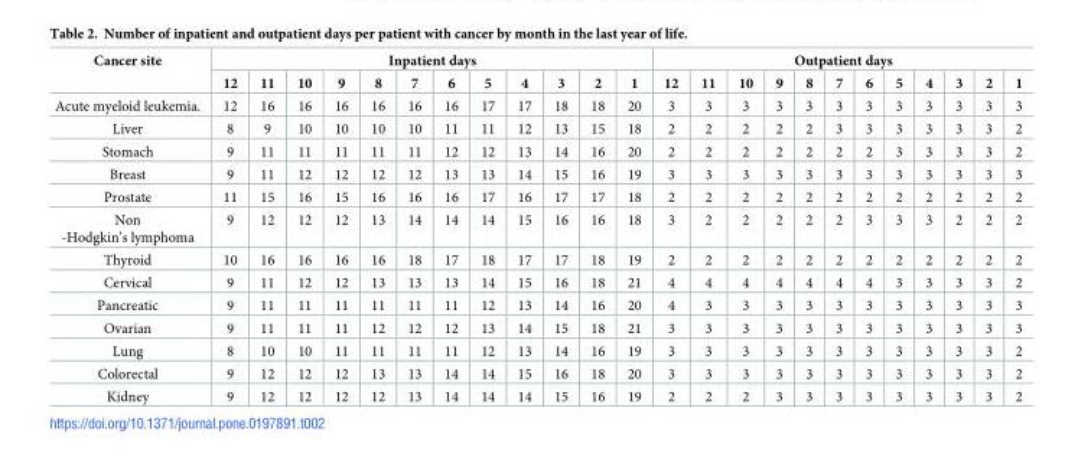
<table><thead><tr><td rowspan="2">Cancer site</td><td colspan="12">Inpatient days</td><td colspan="12">Outpatient days</td></tr><tr><td>12</td><td>11</td><td>10</td><td>9</td><td>8</td><td>7</td><td>6</td><td>5</td><td>4</td><td>3</td><td>2</td><td>1</td><td>12</td><td>11</td><td>10</td><td>9</td><td>8</td><td>7</td><td>6</td><td>5</td><td>4</td><td>3</td><td>2</td><td>1</td></tr></thead><tbody><tr><td>Acute myeloid leukemia.</td><td>12</td><td>16</td><td>16</td><td>16</td><td>16</td><td>16</td><td>16</td><td>17</td><td>17</td><td>18</td><td>18</td><td>20</td><td>3</td><td>3</td><td>3</td><td>3</td><td>3</td><td>3</td><td>3</td><td>3</td><td>3</td><td>3</td><td>3</td><td>3</td></tr><tr><td>Liver</td><td>8</td><td>9</td><td>10</td><td>10</td><td>10</td><td>10</td><td>11</td><td>11</td><td>12</td><td>13</td><td>15</td><td>18</td><td>2</td><td>2</td><td>2</td><td>2</td><td>2</td><td>3</td><td>3</td><td>3</td><td>3</td><td>3</td><td>3</td><td>2</td></tr><tr><td>Stomach</td><td>9</td><td>11</td><td>11</td><td>11</td><td>11</td><td>11</td><td>12</td><td>12</td><td>13</td><td>14</td><td>16</td><td>20</td><td>2</td><td>2</td><td>2</td><td>2</td><td>2</td><td>2</td><td>2</td><td>3</td><td>3</td><td>3</td><td>3</td><td>2</td></tr><tr><td>Breast</td><td>9</td><td>11</td><td>12</td><td>12</td><td>12</td><td>12</td><td>13</td><td>13</td><td>14</td><td>15</td><td>16</td><td>19</td><td>3</td><td>3</td><td>3</td><td>3</td><td>3</td><td>3</td><td>3</td><td>3</td><td>3</td><td>3</td><td>3</td><td>3</td></tr><tr><td>Prostate</td><td>11</td><td>15</td><td>16</td><td>15</td><td>16</td><td>16</td><td>16</td><td>17</td><td>16</td><td>17</td><td>17</td><td>18</td><td>2</td><td>2</td><td>2</td><td>2</td><td>2</td><td>2</td><td>2</td><td>2</td><td>2</td><td>2</td><td>2</td><td>2</td></tr><tr><td>Non -Hodgkin’s lymphoma</td><td>9</td><td>12</td><td>12</td><td>12</td><td>13</td><td>14</td><td>14</td><td>14</td><td>15</td><td>16</td><td>16</td><td>18</td><td>3</td><td>2</td><td>2</td><td>2</td><td>2</td><td>2</td><td>3</td><td>3</td><td>3</td><td>2</td><td>2</td><td>2</td></tr><tr><td>Thyroid</td><td>10</td><td>16</td><td>16</td><td>16</td><td>16</td><td>18</td><td>17</td><td>18</td><td>17</td><td>17</td><td>18</td><td>19</td><td>2</td><td>2</td><td>2</td><td>2</td><td>2</td><td>2</td><td>2</td><td>2</td><td>2</td><td>2</td><td>2</td><td>2</td></tr><tr><td>Cervical</td><td>9</td><td>11</td><td>12</td><td>12</td><td>13</td><td>13</td><td>13</td><td>14</td><td>15</td><td>16</td><td>18</td><td>21</td><td>4</td><td>4</td><td>4</td><td>4</td><td>4</td><td>4</td><td>4</td><td>3</td><td>3</td><td>3</td><td>3</td><td>2</td></tr><tr><td>Pancreatic</td><td>9</td><td>11</td><td>11</td><td>11</td><td>11</td><td>11</td><td>11</td><td>12</td><td>13</td><td>14</td><td>16</td><td>20</td><td>4</td><td>3</td><td>3</td><td>3</td><td>3</td><td>3</td><td>3</td><td>3</td><td>3</td><td>3</td><td>3</td><td>3</td></tr><tr><td>Ovarian</td><td>9</td><td>11</td><td>11</td><td>11</td><td>12</td><td>12</td><td>12</td><td>13</td><td>14</td><td>15</td><td>18</td><td>21</td><td>3</td><td>3</td><td>3</td><td>3</td><td>3</td><td>3</td><td>3</td><td>3</td><td>3</td><td>3</td><td>3</td><td>3</td></tr><tr><td>Lung</td><td>8</td><td>10</td><td>10</td><td>11</td><td>11</td><td>11</td><td>11</td><td>12</td><td>13</td><td>14</td><td>16</td><td>19</td><td>3</td><td>3</td><td>3</td><td>3</td><td>3</td><td>3</td><td>3</td><td>3</td><td>3</td><td>3</td><td>3</td><td>2</td></tr><tr><td>Colorectal</td><td>9</td><td>12</td><td>12</td><td>12</td><td>13</td><td>13</td><td>14</td><td>14</td><td>15</td><td>16</td><td>18</td><td>20</td><td>3</td><td>3</td><td>3</td><td>3</td><td>3</td><td>3</td><td>3</td><td>3</td><td>3</td><td>3</td><td>3</td><td>2</td></tr><tr><td>Kidney</td><td>9</td><td>12</td><td>12</td><td>12</td><td>12</td><td>13</td><td>14</td><td>14</td><td>14</td><td>15</td><td>16</td><td>19</td><td>2</td><td>2</td><td>2</td><td>3</td><td>3</td><td>3</td><td>3</td><td>3</td><td>3</td><td>3</td><td>3</td><td>2</td></tr></tbody></table>